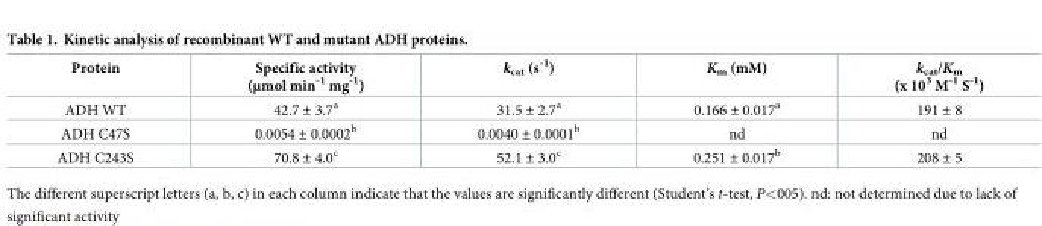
<table><thead><tr><td>Protein</td><td>Specific activity (μmol min<sup>-1</sup> mg<sup>-1</sup>)</td><td>k<sub>cat</sub> (s<sup>-1</sup>)</td><td>K<sub>m</sub> (mM)</td><td>k<sub>cat</sub>/K<sub>m</sub> (x 10<sup>3</sup> M<sup>-1</sup> S<sup>-1</sup>)</td></tr></thead><tbody><tr><td>ADH WT</td><td>42.7 ± 3.7<sup>a</sup></td><td>31.5 ± 2.7<sup>a</sup></td><td>0.166 ± 0.017<sup>a</sup></td><td>191 ± 8</td></tr><tr><td>ADH C47S</td><td>0.0054 ± 0.0002<sup>b</sup></td><td>0.0040 ± 0.0001<sup>b</sup></td><td>nd</td><td>nd</td></tr><tr><td>ADH C243S</td><td>70.8 ± 4.0<sup>c</sup></td><td>52.1 ± 3.0<sup>c</sup></td><td>0.251 ± 0.017<sup>b</sup></td><td>208 ± 5</td></tr></tbody></table>